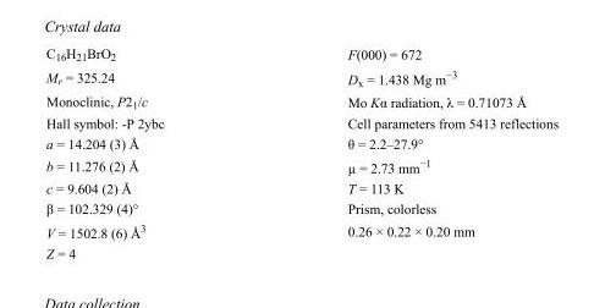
<table><tbody><tr><td>C<sub>16</sub>H<sub>21</sub>BrO<sub>2</sub></td><td>F(000) = 672</td></tr><tr><td>M<sub>r</sub> = 325.24</td><td>D<sub>x</sub> = 1.438 Mg m<sup>−3</sup></td></tr><tr><td>Monoclinic, P2<sub>1</sub>/c</td><td>Mo Kα radiation, λ = 0.71073 Å</td></tr><tr><td>Hall symbol: -P 2ybc</td><td>Cell parameters from 5413 reflections</td></tr><tr><td>a = 14.204 (3) Å</td><td>θ = 2.2–27.9°</td></tr><tr><td>b = 11.276 (2) Å</td><td>µ = 2.73 mm<sup>−1</sup></td></tr><tr><td>c = 9.604 (2) Å</td><td>T = 113 K</td></tr><tr><td>β = 102.329 (4)°</td><td>Prism, colorless</td></tr><tr><td>V = 1502.8 (6) Å<sup>3</sup></td><td>0.26 × 0.22 × 0.20 mm</td></tr><tr><td>Z = 4</td><td></td></tr></tbody></table>